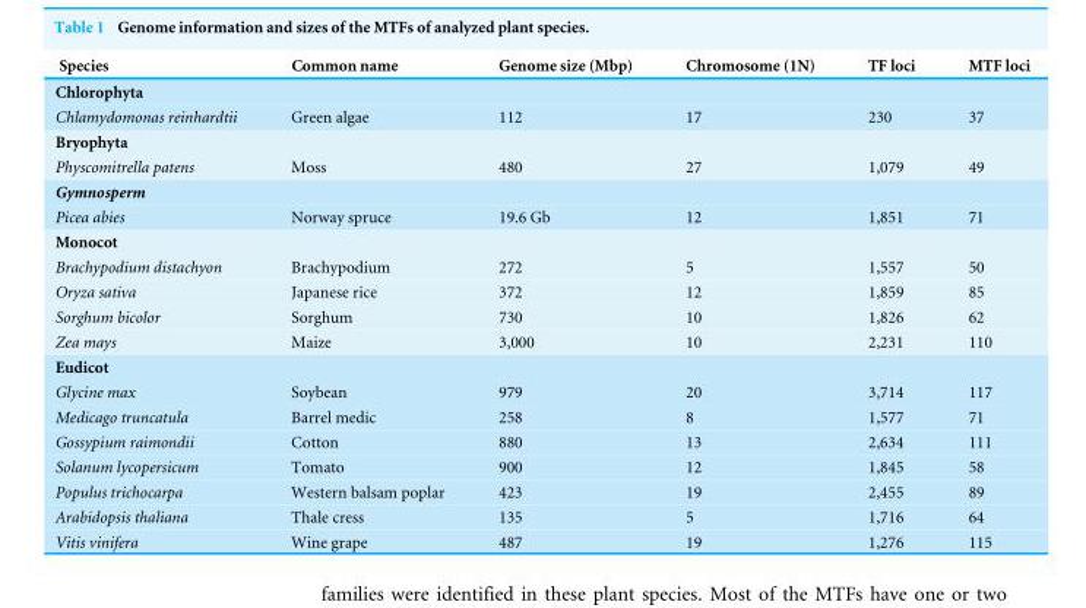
<table><thead><tr><td>Species</td><td>Common name</td><td>Genome size (Mbp)</td><td>Chromosome (1N)</td><td>TF loci</td><td>MTF loci</td></tr></thead><tbody><tr><td colspan="6">Chlorophyta</td></tr><tr><td>Chlamydomonas reinhardtii</td><td>Green algae</td><td>112</td><td>17</td><td>230</td><td>37</td></tr><tr><td colspan="6">Bryophyta</td></tr><tr><td>Physcomitrella patens</td><td>Moss</td><td>480</td><td>27</td><td>1,079</td><td>49</td></tr><tr><td colspan="6">Gymnosperm</td></tr><tr><td>Picea abies</td><td>Norway spruce</td><td>19.6 Gb</td><td>12</td><td>1,851</td><td>71</td></tr><tr><td colspan="6">Monocot</td></tr><tr><td>Brachypodium distachyon</td><td>Brachypodium</td><td>272</td><td>5</td><td>1,557</td><td>50</td></tr><tr><td>Oryza sativa</td><td>Japanese rice</td><td>372</td><td>12</td><td>1,859</td><td>85</td></tr><tr><td>Sorghum bicolor</td><td>Sorghum</td><td>730</td><td>10</td><td>1,826</td><td>62</td></tr><tr><td>Zea mays</td><td>Maize</td><td>3,000</td><td>10</td><td>2,231</td><td>110</td></tr><tr><td colspan="6">Eudicot</td></tr><tr><td>Glycine max</td><td>Soybean</td><td>979</td><td>20</td><td>3,714</td><td>117</td></tr><tr><td>Medicago truncatula</td><td>Barrel medic</td><td>258</td><td>8</td><td>1,577</td><td>71</td></tr><tr><td>Gossypium raimondii</td><td>Cotton</td><td>880</td><td>13</td><td>2,634</td><td>111</td></tr><tr><td>Solanum lycopersicum</td><td>Tomato</td><td>900</td><td>12</td><td>1,845</td><td>58</td></tr><tr><td>Populus trichocarpa</td><td>Western balsam poplar</td><td>423</td><td>19</td><td>2,455</td><td>89</td></tr><tr><td>Arabidopsis thaliana</td><td>Thale cress</td><td>135</td><td>5</td><td>1,716</td><td>64</td></tr><tr><td>Vitis vinifera</td><td>Wine grape</td><td>487</td><td>19</td><td>1,276</td><td>115</td></tr></tbody></table>